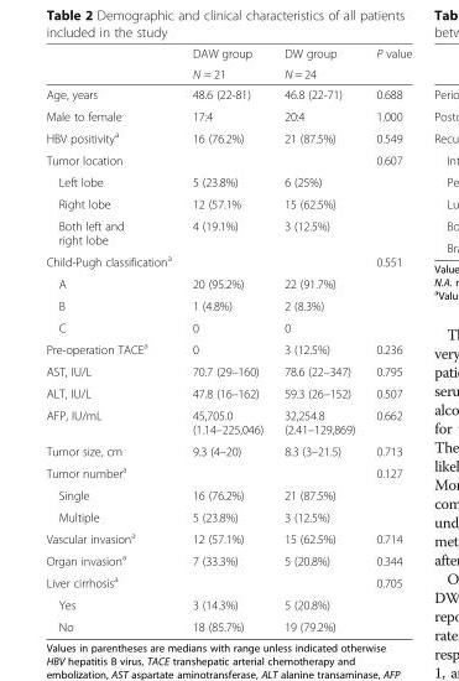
<table><thead><tr><td rowspan="2"></td><td rowspan="2">DAW group N = 21</td><td rowspan="2">DW group N = 24</td><td rowspan="2">P value</td></tr><tr></tr></thead><tbody><tr><td>Age, years</td><td>48.6 (22-81)</td><td>46.8 (22-71)</td><td>0.688</td></tr><tr><td>Male to female</td><td>17:4</td><td>20:4</td><td>1.000</td></tr><tr><td>HBV positivity<sup>a</sup></td><td>16 (76.2%)</td><td>21 (87.5%)</td><td>0.549</td></tr><tr><td>Tumor location</td><td></td><td></td><td>0.607</td></tr><tr><td>Left lobe</td><td>5 (23.8%)</td><td>6 (25%)</td><td></td></tr><tr><td>Right lobe</td><td>12 (57.1%</td><td>15 (62.5%)</td><td></td></tr><tr><td>Both left and right lobe</td><td>4 (19.1%)</td><td>3 (12.5%)</td><td></td></tr><tr><td>Child-Pugh classification<sup>a</sup></td><td></td><td></td><td>0.551</td></tr><tr><td>A</td><td>20 (95.2%)</td><td>22 (91.7%)</td><td></td></tr><tr><td>B</td><td>1 (4.8%)</td><td>2 (8.3%)</td><td></td></tr><tr><td>C</td><td>0</td><td>0</td><td></td></tr><tr><td>Pre-operation TACE<sup>a</sup></td><td>0</td><td>3 (12.5%)</td><td>0.236</td></tr><tr><td>AST, IU/L</td><td>70.7 (29–160)</td><td>78.6 (22–347)</td><td>0.795</td></tr><tr><td>ALT, IU/L</td><td>47.8 (16–162)</td><td>59.3 (26–152)</td><td>0.507</td></tr><tr><td>AFP, IU/mL</td><td>45,705.0 (1.14–225,046)</td><td>32,254.8 (2.41–129,869)</td><td>0.662</td></tr><tr><td>Tumor size, cm</td><td>9.3 (4–20)</td><td>8.3 (3–21.5)</td><td>0.713</td></tr><tr><td>Tumor number<sup>a</sup></td><td></td><td></td><td>0.127</td></tr><tr><td>Single</td><td>16 (76.2%)</td><td>21 (87.5%)</td><td></td></tr><tr><td>Multiple</td><td>5 (23.8%)</td><td>3 (12.5%)</td><td></td></tr><tr><td>Vascular invasion<sup>a</sup></td><td>12 (57.1%)</td><td>15 (62.5%)</td><td>0.714</td></tr><tr><td>Organ invasion<sup>a</sup></td><td>7 (33.3%)</td><td>5 (20.8%)</td><td>0.344</td></tr><tr><td>Liver cirrhosis<sup>a</sup></td><td></td><td></td><td>0.705</td></tr><tr><td>Yes</td><td>3 (14.3%)</td><td>5 (20.8%)</td><td></td></tr><tr><td>No</td><td>18 (85.7%)</td><td>19 (79.2%)</td><td></td></tr></tbody></table>